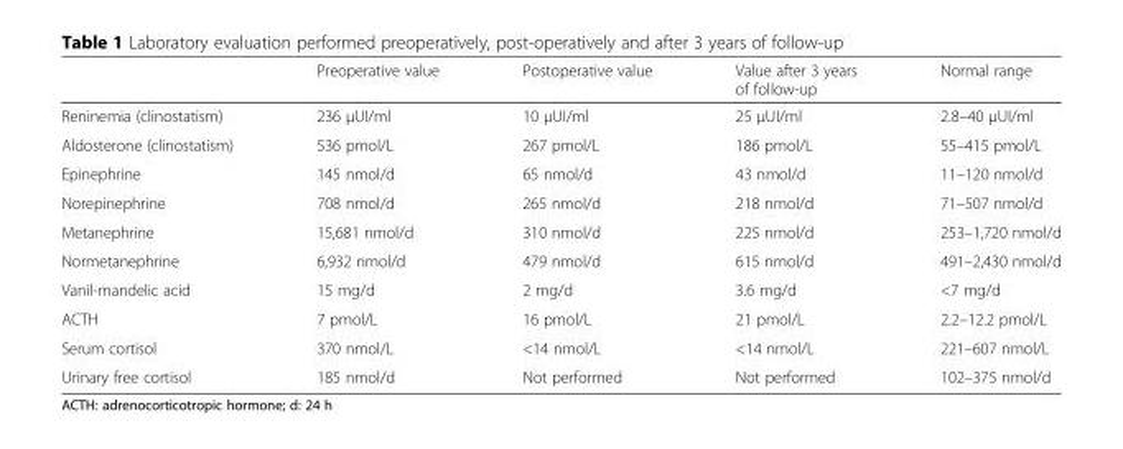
<table><thead><tr><td></td><td>Preoperative value</td><td>Postoperative value</td><td>Value after 3 years of follow-up</td><td>Normal range</td></tr></thead><tbody><tr><td>Reninemia (clinostatism)</td><td>236 μUI/ml</td><td>10 μUI/ml</td><td>25 μUI/ml</td><td>2.8–40 μUI/ml</td></tr><tr><td>Aldosterone (clinostatism)</td><td>536 pmol/L</td><td>267 pmol/L</td><td>186 pmol/L</td><td>55–415 pmol/L</td></tr><tr><td>Epinephrine</td><td>145 nmol/d</td><td>65 nmol/d</td><td>43 nmol/d</td><td>11–120 nmol/d</td></tr><tr><td>Norepinephrine</td><td>708 nmol/d</td><td>265 nmol/d</td><td>218 nmol/d</td><td>71–507 nmol/d</td></tr><tr><td>Metanephrine</td><td>15,681 nmol/d</td><td>310 nmol/d</td><td>225 nmol/d</td><td>253–1,720 nmol/d</td></tr><tr><td>Normetanephrine</td><td>6,932 nmol/d</td><td>479 nmol/d</td><td>615 nmol/d</td><td>491–2,430 nmol/d</td></tr><tr><td>Vanil-mandelic acid</td><td>15 mg/d</td><td>2 mg/d</td><td>3.6 mg/d</td><td>&lt;7 mg/d</td></tr><tr><td>ACTH</td><td>7 pmol/L</td><td>16 pmol/L</td><td>21 pmol/L</td><td>2.2–12.2 pmol/L</td></tr><tr><td>Serum cortisol</td><td>370 nmol/L</td><td>&lt;14 nmol/L</td><td>&lt;14 nmol/L</td><td>221–607 nmol/L</td></tr><tr><td>Urinary free cortisol</td><td>185 nmol/d</td><td>Not performed</td><td>Not performed</td><td>102–375 nmol/d</td></tr></tbody></table>